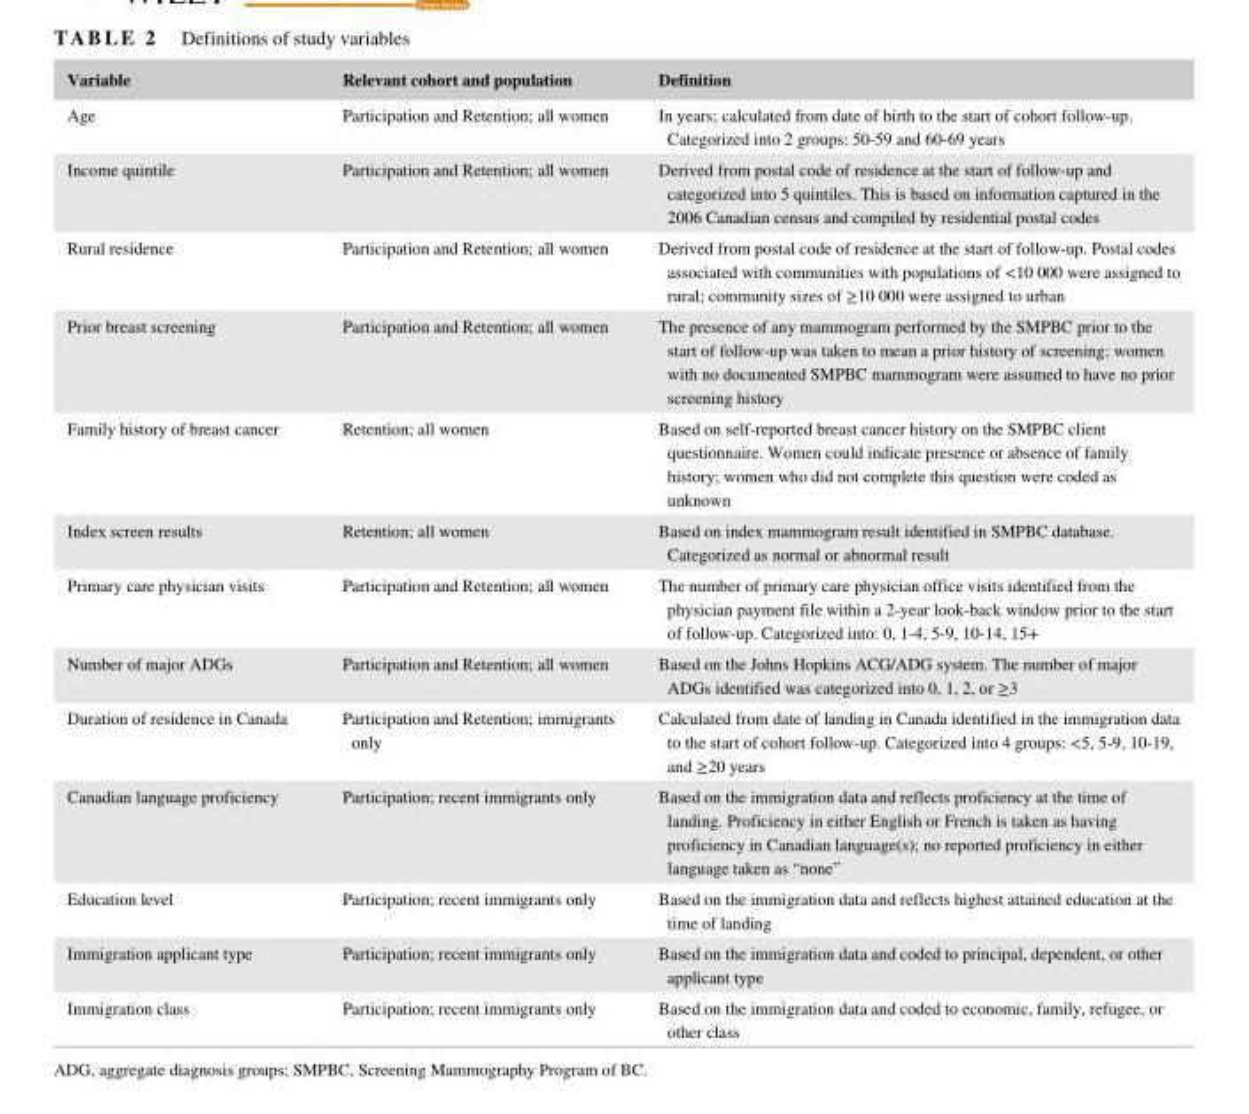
<table><thead><tr><td>Variable</td><td>Relevant cohort and population</td><td>Definition</td></tr></thead><tbody><tr><td>Age</td><td>Participation and Retention; all women</td><td>In years; calculated from date of birth to the start of cohort follow- up. Categorized into 2 groups: 50- 59 and 60- 69 years</td></tr><tr><td>Income quintile</td><td>Participation and Retention; all women</td><td>Derived from postal code of residence at the start of follow- up and categorized into 5 quintiles. This is based on information captured in the 2006 Canadian census and compiled by residential postal codes</td></tr><tr><td>Rural residence</td><td>Participation and Retention; all women</td><td>Derived from postal code of residence at the start of follow- up. Postal codes associated with communities with populations of &lt;10 000 were assigned to rural; community sizes of ≥10 000 were assigned to urban</td></tr><tr><td>Prior breast screening</td><td>Participation and Retention; all women</td><td>The presence of any mammogram performed by the SMPBC prior to the start of follow- up was taken to mean a prior history of screening; women with no documented SMPBC mammogram were assumed to have no prior screening history</td></tr><tr><td>Family history of breast cancer</td><td>Retention; all women</td><td>Based on self- reported breast cancer history on the SMPBC client questionnaire. Women could indicate presence or absence of family history; women who did not complete this question were coded as unknown</td></tr><tr><td>Index screen results</td><td>Retention; all women</td><td>Based on index mammogram result identified in SMPBC database. Categorized as normal or abnormal result</td></tr><tr><td>Primary care physician visits</td><td>Participation and Retention; all women</td><td>The number of primary care physician office visits identified from the physician payment file within a 2- year look- back window prior to the start of follow- up. Categorized into: 0, 1- 4, 5- 9, 10- 14, 15+</td></tr><tr><td>Number of major ADGs</td><td>Participation and Retention; all women</td><td>Based on the Johns Hopkins ACG/ADG system. The number of major ADGs identified was categorized into 0, 1, 2, or ≥3</td></tr><tr><td>Duration of residence in Canada</td><td>Participation and Retention; immigrants only</td><td>Calculated from date of landing in Canada identified in the immigration data to the start of cohort follow- up. Categorized into 4 groups: &lt;5, 5- 9, 10- 19, and ≥20 years</td></tr><tr><td>Canadian language proficiency</td><td>Participation; recent immigrants only</td><td>Based on the immigration data and reflects proficiency at the time of landing. Proficiency in either English or French is taken as having proficiency in Canadian language(s); no reported proficiency in either language taken as “none”</td></tr><tr><td>Education level</td><td>Participation; recent immigrants only</td><td>Based on the immigration data and reflects highest attained education at the time of landing</td></tr><tr><td>Immigration applicant type</td><td>Participation; recent immigrants only</td><td>Based on the immigration data and coded to principal, dependent, or other applicant type</td></tr><tr><td>Immigration class</td><td>Participation; recent immigrants only</td><td>Based on the immigration data and coded to economic, family, refugee, or other class</td></tr></tbody></table>